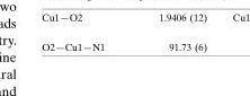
<table><tbody><tr><td>O2—Cu1—N1</td><td>91.73 (6)</td></tr></tbody></table>